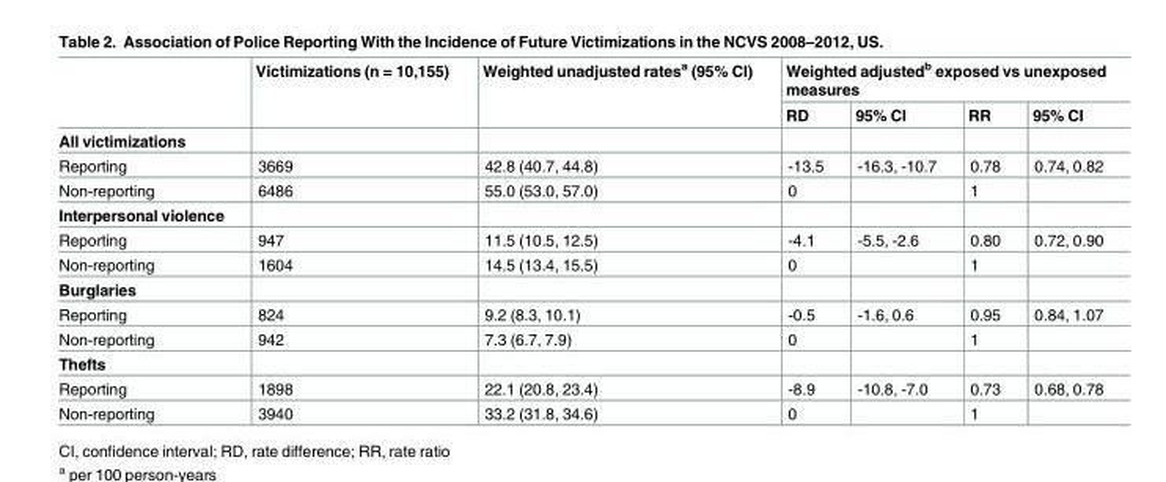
<table><thead><tr><td rowspan="2"></td><td rowspan="2">Victimizations (n = 10,155)</td><td rowspan="2">Weighted unadjusted rates<sup>a</sup> (95% CI)</td><td colspan="4">Weighted adjusted<sup>b</sup> exposed vs unexposed measures</td></tr><tr><td>RD</td><td>95% CI</td><td>RR</td><td>95% CI</td></tr></thead><tbody><tr><td colspan="7">All victimizations</td></tr><tr><td>Reporting</td><td>3669</td><td>42.8 (40.7, 44.8)</td><td>-13.5</td><td>-16.3, -10.7</td><td>0.78</td><td>0.74, 0.82</td></tr><tr><td>Non-reporting</td><td>6486</td><td>55.0 (53.0, 57.0)</td><td>0</td><td></td><td>1</td><td></td></tr><tr><td colspan="7">Interpersonal violence</td></tr><tr><td>Reporting</td><td>947</td><td>11.5 (10.5, 12.5)</td><td>-4.1</td><td>-5.5, -2.6</td><td>0.80</td><td>0.72, 0.90</td></tr><tr><td>Non-reporting</td><td>1604</td><td>14.5 (13.4, 15.5)</td><td>0</td><td></td><td>1</td><td></td></tr><tr><td colspan="7">Burglaries</td></tr><tr><td>Reporting</td><td>824</td><td>9.2 (8.3, 10.1)</td><td>-0.5</td><td>-1.6, 0.6</td><td>0.95</td><td>0.84, 1.07</td></tr><tr><td>Non-reporting</td><td>942</td><td>7.3 (6.7, 7.9)</td><td>0</td><td></td><td>1</td><td></td></tr><tr><td colspan="7">Thefts</td></tr><tr><td>Reporting</td><td>1898</td><td>22.1 (20.8, 23.4)</td><td>-8.9</td><td>-10.8, -7.0</td><td>0.73</td><td>0.68, 0.78</td></tr><tr><td>Non-reporting</td><td>3940</td><td>33.2 (31.8, 34.6)</td><td>0</td><td></td><td>1</td><td></td></tr></tbody></table>